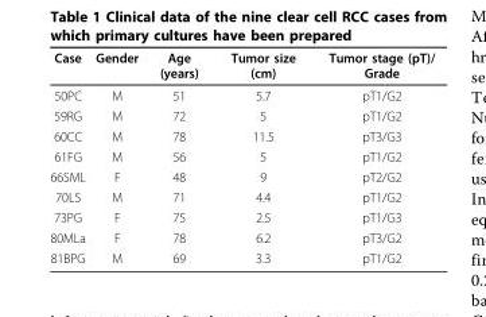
<table><thead><tr><td>Case</td><td>Gender</td><td>Age (years)</td><td>Tumor size (cm)</td><td>Tumor stage (pT)/ Grade</td></tr></thead><tbody><tr><td>50PC</td><td>M</td><td>51</td><td>5.7</td><td>pT1/G2</td></tr><tr><td>59RG</td><td>M</td><td>72</td><td>5</td><td>pT1/G2</td></tr><tr><td>60CC</td><td>M</td><td>78</td><td>11.5</td><td>pT3/G3</td></tr><tr><td>61FG</td><td>M</td><td>56</td><td>5</td><td>pT1/G2</td></tr><tr><td>66SML</td><td>F</td><td>48</td><td>9</td><td>pT2/G2</td></tr><tr><td>70LS</td><td>M</td><td>71</td><td>4.4</td><td>pT1/G2</td></tr><tr><td>73PG</td><td>F</td><td>75</td><td>2.5</td><td>pT1/G3</td></tr><tr><td>80MLa</td><td>F</td><td>78</td><td>6.2</td><td>pT3/G2</td></tr><tr><td>81BPG</td><td>M</td><td>69</td><td>3.3</td><td>pT1/G2</td></tr></tbody></table>